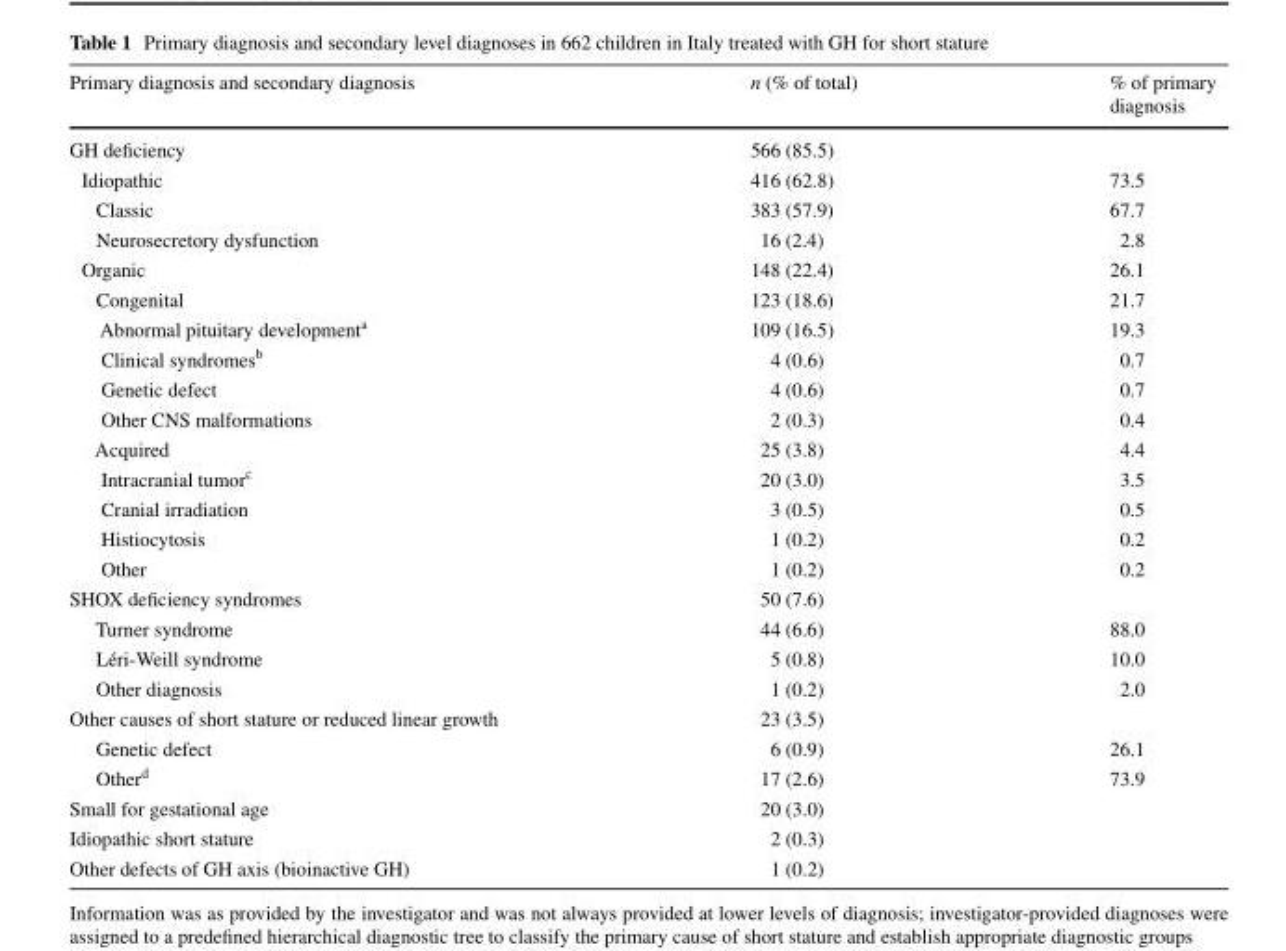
<table><thead><tr><td>Primary diagnosis and secondary diagnosis</td><td>n (% of total)</td><td>% of primary diagnosis</td></tr></thead><tbody><tr><td>GH deficiency</td><td>566 (85.5)</td><td></td></tr><tr><td>Idiopathic</td><td>416 (62.8)</td><td>73.5</td></tr><tr><td>Classic</td><td>383 (57.9)</td><td>67.7</td></tr><tr><td>Neurosecretory dysfunction</td><td>16 (2.4)</td><td>2.8</td></tr><tr><td>Organic</td><td>148 (22.4)</td><td>26.1</td></tr><tr><td>Congenital</td><td>123 (18.6)</td><td>21.7</td></tr><tr><td>Abnormal pituitary development<sup>a</sup></td><td>109 (16.5)</td><td>19.3</td></tr><tr><td>Clinical syndromes<sup>b</sup></td><td>4 (0.6)</td><td>0.7</td></tr><tr><td>Genetic defect</td><td>4 (0.6)</td><td>0.7</td></tr><tr><td>Other CNS malformations</td><td>2 (0.3)</td><td>0.4</td></tr><tr><td>Acquired</td><td>25 (3.8)</td><td>4.4</td></tr><tr><td>Intracranial tumor<sup>c</sup></td><td>20 (3.0)</td><td>3.5</td></tr><tr><td>Cranial irradiation</td><td>3 (0.5)</td><td>0.5</td></tr><tr><td>Histiocytosis</td><td>1 (0.2)</td><td>0.2</td></tr><tr><td>Other</td><td>1 (0.2)</td><td>0.2</td></tr><tr><td>SHOX deficiency syndromes</td><td>50 (7.6)</td><td></td></tr><tr><td>Turner syndrome</td><td>44 (6.6)</td><td>88.0</td></tr><tr><td>Léri-Weill syndrome</td><td>5 (0.8)</td><td>10.0</td></tr><tr><td>Other diagnosis</td><td>1 (0.2)</td><td>2.0</td></tr><tr><td>Other causes of short stature or reduced linear growth</td><td>23 (3.5)</td><td></td></tr><tr><td>Genetic defect</td><td>6 (0.9)</td><td>26.1</td></tr><tr><td>Other<sup>d</sup></td><td>17 (2.6)</td><td>73.9</td></tr><tr><td>Small for gestational age</td><td>20 (3.0)</td><td></td></tr><tr><td>Idiopathic short stature</td><td>2 (0.3)</td><td></td></tr><tr><td>Other defects of GH axis (bioinactive GH)</td><td>1 (0.2)</td><td></td></tr></tbody></table>